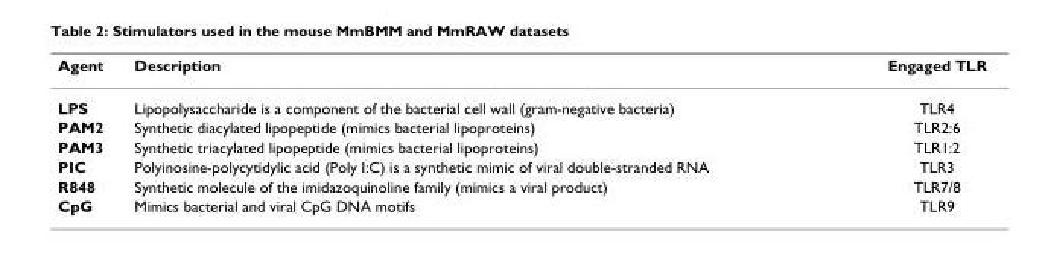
<table><thead><tr><td>Agent</td><td>Description</td><td>Engaged TLR</td></tr></thead><tbody><tr><td>LPS</td><td>Lipopolysaccharide is a component of the bacterial cell wall (gram-negative bacteria)</td><td>TLR4</td></tr><tr><td>PAM2</td><td>Synthetic diacylated lipopeptide (mimics bacterial lipoproteins)</td><td>TLR2:6</td></tr><tr><td>PAM3</td><td>Synthetic triacylated lipopeptide (mimics bacterial lipoproteins)</td><td>TLR1:2</td></tr><tr><td>PIC</td><td>Polyinosine-polycytidylic acid (Poly I:C) is a synthetic mimic of viral double-stranded RNA</td><td>TLR3</td></tr><tr><td>R848</td><td>Synthetic molecule of the imidazoquinoline family (mimics a viral product)</td><td>TLR7/8</td></tr><tr><td>CpG</td><td>Mimics bacterial and viral CpG DNA motifs</td><td>TLR9</td></tr></tbody></table>